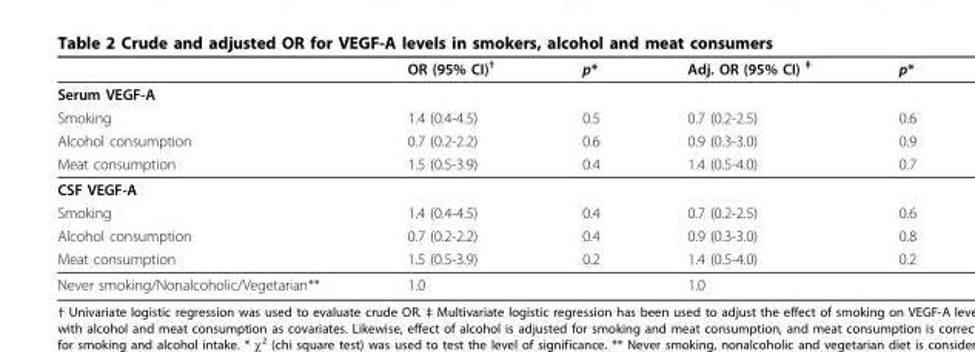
<table><thead><tr><td></td><td>OR (95% CI)<sup>†</sup></td><td>p*</td><td>Adj. OR (95% CI) <sup>‡</sup></td><td>p*</td></tr></thead><tbody><tr><td colspan="5">Serum VEGF-A</td></tr><tr><td>Smoking</td><td>1.4 (0.4-4.5)</td><td>0.5</td><td>0.7 (0.2-2.5)</td><td>0.6</td></tr><tr><td>Alcohol consumption</td><td>0.7 (0.2-2.2)</td><td>0.6</td><td>0.9 (0.3-3.0)</td><td>0.9</td></tr><tr><td>Meat consumption</td><td>1.5 (0.5-3.9)</td><td>0.4</td><td>1.4 (0.5-4.0)</td><td>0.7</td></tr><tr><td colspan="5">CSF VEGF-A</td></tr><tr><td>Smoking</td><td>1.4 (0.4-4.5)</td><td>0.4</td><td>0.7 (0.2-2.5)</td><td>0.6</td></tr><tr><td>Alcohol consumption</td><td>0.7 (0.2-2.2)</td><td>0.4</td><td>0.9 (0.3-3.0)</td><td>0.8</td></tr><tr><td>Meat consumption</td><td>1.5 (0.5-3.9)</td><td>0.2</td><td>1.4 (0.5-4.0)</td><td>0.2</td></tr><tr><td>Never smoking/Nonalcoholic/Vegetarian**</td><td>1.0</td><td></td><td>1.0</td><td></td></tr></tbody></table>